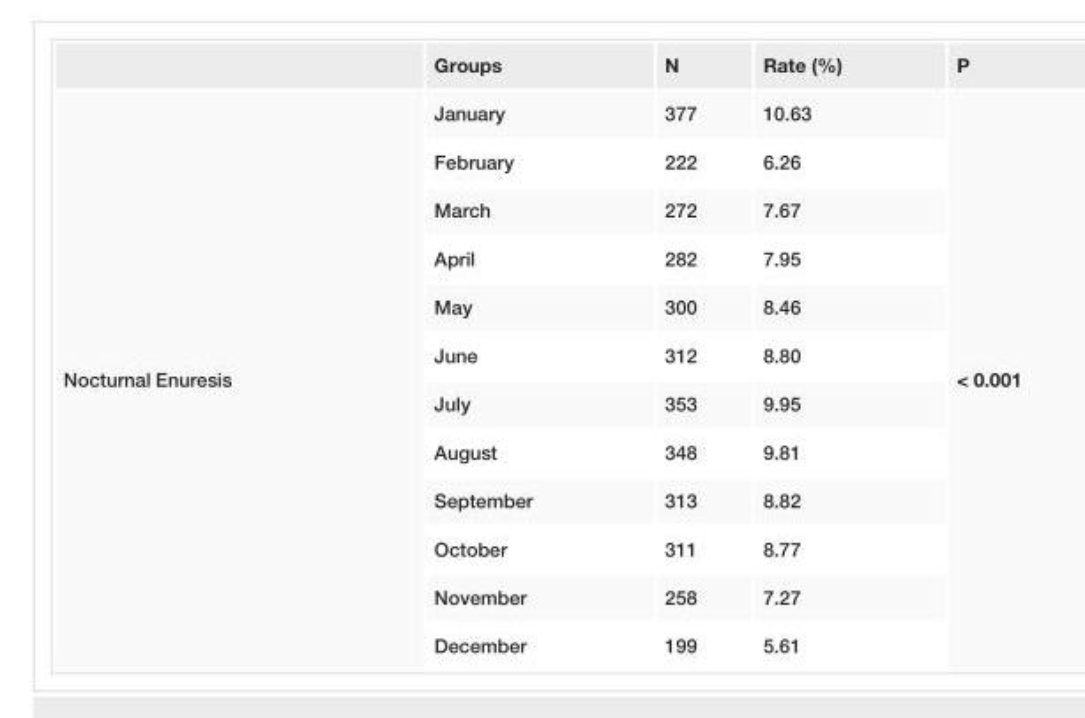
<table><thead><tr><td></td><td>Groups</td><td>N</td><td>Rate (%)</td><td>P</td></tr></thead><tbody><tr><td rowspan="12">Nocturnal Enuresis</td><td>January</td><td>377</td><td>10.63</td><td rowspan="12">&lt; 0.001</td></tr><tr><td>February</td><td>222</td><td>6.26</td></tr><tr><td>March</td><td>272</td><td>7.67</td></tr><tr><td>April</td><td>282</td><td>7.95</td></tr><tr><td>May</td><td>300</td><td>8.46</td></tr><tr><td>June</td><td>312</td><td>8.80</td></tr><tr><td>July</td><td>353</td><td>9.95</td></tr><tr><td>August</td><td>348</td><td>9.81</td></tr><tr><td>September</td><td>313</td><td>8.82</td></tr><tr><td>October</td><td>311</td><td>8.77</td></tr><tr><td>November</td><td>258</td><td>7.27</td></tr><tr><td>December</td><td>199</td><td>5.61</td></tr></tbody></table>